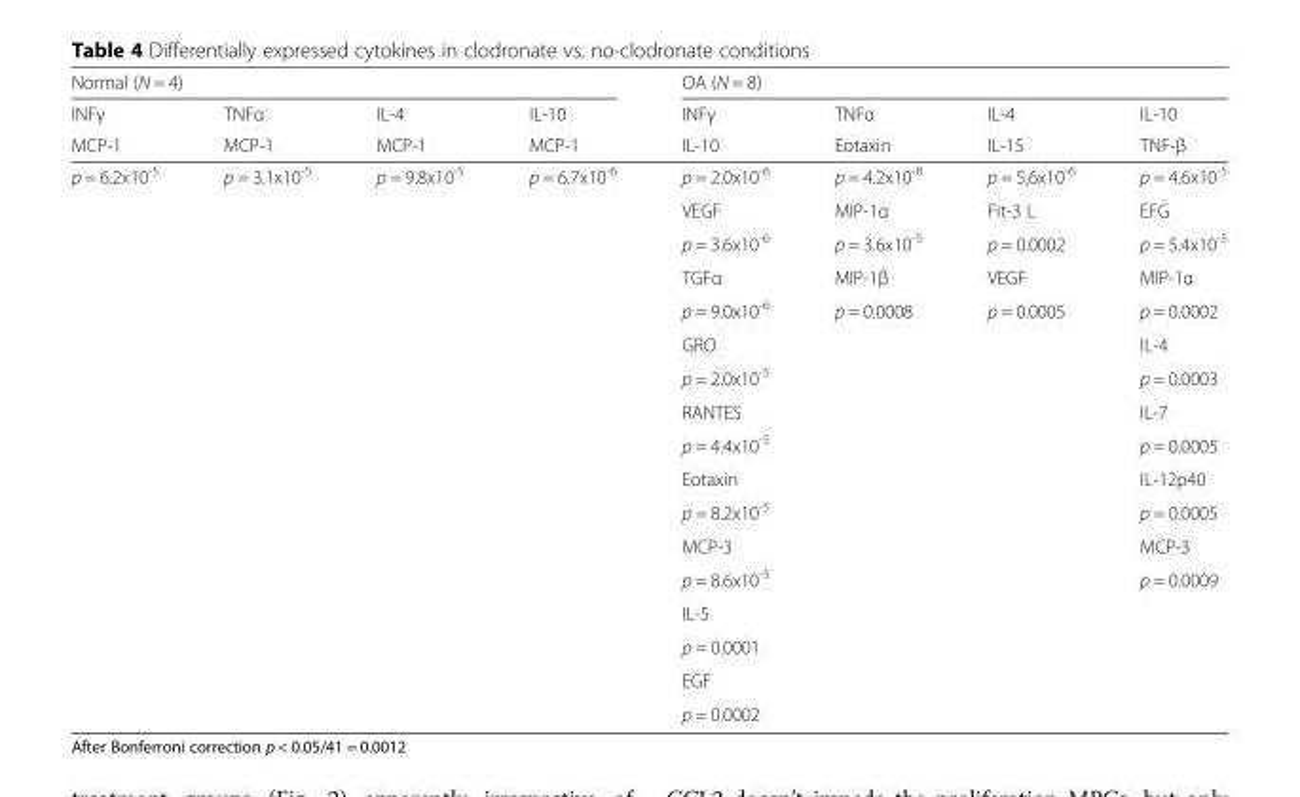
<table><thead><tr><td colspan="4">Normal (N = 4)</td><td colspan="4">OA (N = 8)</td></tr><tr><td rowspan="2">INFγ MCP-1</td><td rowspan="2">TNFα MCP-1</td><td rowspan="2">IL-4 MCP-1</td><td rowspan="2">IL-10 MCP-1</td><td rowspan="2">INFγ IL-10</td><td rowspan="2">TNFα Eotaxin</td><td rowspan="2">IL-4 IL-15</td><td rowspan="2">IL-10 TNF-β</td></tr><tr></tr></thead><tbody><tr><td rowspan="17">p = 6.2x10<sup>-5</sup></td><td>p = 3.1x10<sup>-5</sup></td><td>p = 9.8x10<sup>-5</sup></td><td>p = 6.7x10<sup>-6</sup></td><td>p = 2.0x10<sup>-6</sup></td><td>p = 4.2x10<sup>-8</sup></td><td>p = 5,6x10<sup>-6</sup></td><td>p = 4.6x10<sup>-5</sup></td></tr><tr><td rowspan="2"></td><td rowspan="2"></td><td rowspan="2"></td><td>VEGF</td><td>MIP-1α</td><td>Fit-3 L</td><td>EFG</td></tr><tr><td>p = 3.6x10<sup>-6</sup></td><td>p = 3.6x10<sup>-5</sup></td><td>p = 0.0002</td><td>p = 5.4x10<sup>-5</sup></td></tr><tr><td rowspan="2"></td><td rowspan="2"></td><td rowspan="2"></td><td>TGFα</td><td>MIP-1β</td><td>VEGF</td><td>MIP-1α</td></tr><tr><td>p = 9.0x10<sup>-6</sup></td><td>p = 0.0008</td><td>p = 0.0005</td><td>p = 0.0002</td></tr><tr><td rowspan="2"></td><td rowspan="2"></td><td rowspan="2"></td><td>GRO</td><td rowspan="2"></td><td rowspan="2"></td><td>IL-4</td></tr><tr><td>p = 2.0x10<sup>-5</sup></td><td>p = 0.0003</td></tr><tr><td rowspan="2"></td><td rowspan="2"></td><td rowspan="2"></td><td>RANTES</td><td rowspan="2"></td><td rowspan="2"></td><td>IL-7</td></tr><tr><td>p = 4.4x10<sup>-5</sup></td><td>p = 0.0005</td></tr><tr><td rowspan="2"></td><td rowspan="2"></td><td rowspan="2"></td><td>Eotaxin</td><td rowspan="2"></td><td rowspan="2"></td><td>IL-12p40</td></tr><tr><td>p = 8.2x10<sup>-5</sup></td><td>p = 0.0005</td></tr><tr><td rowspan="2"></td><td rowspan="2"></td><td rowspan="2"></td><td>MCP-3</td><td rowspan="2"></td><td rowspan="2"></td><td>MCP-3</td></tr><tr><td>p = 8.6x10<sup>-5</sup></td><td>p = 0.0009</td></tr><tr><td rowspan="2"></td><td rowspan="2"></td><td rowspan="2"></td><td>IL-5</td><td rowspan="2"></td><td rowspan="2"></td><td rowspan="2"></td></tr><tr><td>p = 0.0001</td></tr><tr><td rowspan="2"></td><td rowspan="2"></td><td rowspan="2"></td><td>EGF</td><td rowspan="2"></td><td rowspan="2"></td><td rowspan="2"></td></tr><tr><td>p = 0.0002</td></tr></tbody></table>